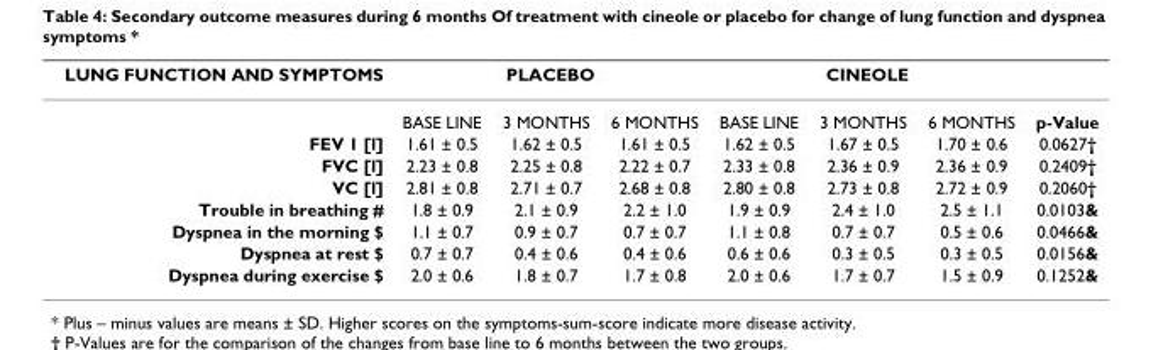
<table><thead><tr><td rowspan="2">LUNG FUNCTION AND SYMPTOMS</td><td colspan="3">PLACEBO</td><td colspan="3">CINEOLE</td><td rowspan="2">p-Value</td></tr><tr><td>BASE LINE</td><td>3 MONTHS</td><td>6 MONTHS</td><td>BASE LINE</td><td>3 MONTHS</td><td>6 MONTHS</td></tr></thead><tbody><tr><td>FEV 1 [l]</td><td>1.61 ± 0.5</td><td>1.62 ± 0.5</td><td>1.61 ± 0.5</td><td>1.62 ± 0.5</td><td>1.67 ± 0.5</td><td>1.70 ± 0.6</td><td>0.0627†</td></tr><tr><td>FVC [l]</td><td>2.23 ± 0.8</td><td>2.25 ± 0.8</td><td>2.22 ± 0.7</td><td>2.33 ± 0.8</td><td>2.36 ± 0.9</td><td>2.36 ± 0.9</td><td>0.2409†</td></tr><tr><td>VC [l]</td><td>2.81 ± 0.8</td><td>2.71 ± 0.7</td><td>2.68 ± 0.8</td><td>2.80 ± 0.8</td><td>2.73 ± 0.8</td><td>2.72 ± 0.9</td><td>0.2060†</td></tr><tr><td>Trouble in breathing #</td><td>1.8 ± 0.9</td><td>2.1 ± 0.9</td><td>2.2 ± 1.0</td><td>1.9 ± 0.9</td><td>2.4 ± 1.0</td><td>2.5 ± 1.1</td><td>0.0103&amp;</td></tr><tr><td>Dyspnea in the morning $</td><td>1.1 ± 0.7</td><td>0.9 ± 0.7</td><td>0.7 ± 0.7</td><td>1.1 ± 0.8</td><td>0.7 ± 0.7</td><td>0.5 ± 0.6</td><td>0.0466&amp;</td></tr><tr><td>Dyspnea at rest $</td><td>0.7 ± 0.7</td><td>0.4 ± 0.6</td><td>0.4 ± 0.6</td><td>0.6 ± 0.6</td><td>0.3 ± 0.5</td><td>0.3 ± 0.5</td><td>0.0156&amp;</td></tr><tr><td>Dyspnea during exercise $</td><td>2.0 ± 0.6</td><td>1.8 ± 0.7</td><td>1.7 ± 0.8</td><td>2.0 ± 0.6</td><td>1.7 ± 0.7</td><td>1.5 ± 0.9</td><td>0.1252&amp;</td></tr></tbody></table>